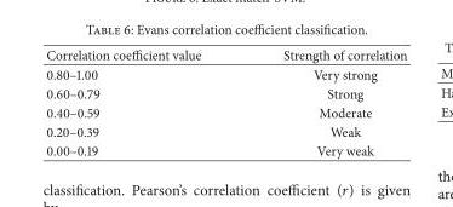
<table><thead><tr><td>Correlation coefficient value</td><td>Strength of correlation</td></tr></thead><tbody><tr><td>0.80–1.00</td><td>Very strong</td></tr><tr><td>0.60–0.79</td><td>Strong</td></tr><tr><td>0.40–0.59</td><td>Moderate</td></tr><tr><td>0.20–0.39</td><td>Weak</td></tr><tr><td>0.00–0.19</td><td>Very weak</td></tr></tbody></table>